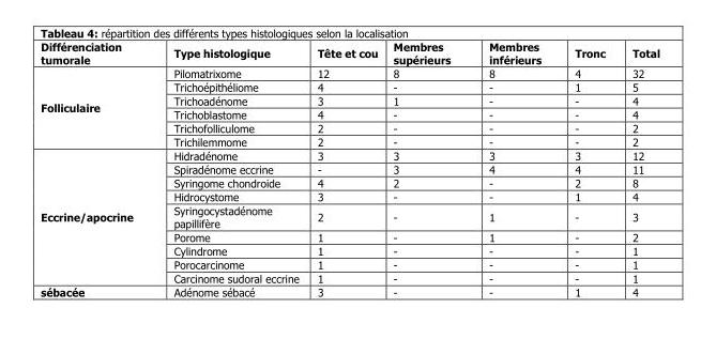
<table><thead><tr><td>Différenciation tumorale</td><td>Type histologique</td><td>Tête et cou</td><td>Membres supérieurs</td><td>Membres inférieurs</td><td>Tronc</td><td>Total</td></tr></thead><tbody><tr><td rowspan="6">Folliculaire</td><td>Pilomatrixome</td><td>12</td><td>8</td><td>8</td><td>4</td><td>32</td></tr><tr><td>Trichoépithéliome</td><td>4</td><td>-</td><td>-</td><td>1</td><td>5</td></tr><tr><td>Trichoadénome</td><td>3</td><td>1</td><td>-</td><td>-</td><td>4</td></tr><tr><td>Trichoblastome</td><td>4</td><td>-</td><td>-</td><td>-</td><td>4</td></tr><tr><td>Trichofolliculome</td><td>2</td><td>-</td><td>-</td><td>-</td><td>2</td></tr><tr><td>Trichilemmome</td><td>2</td><td>-</td><td>-</td><td>-</td><td>2</td></tr><tr><td rowspan="9">Eccrine/apocrine</td><td>Hidradénome</td><td>3</td><td>3</td><td>3</td><td>3</td><td>12</td></tr><tr><td>Spiradénome eccrine</td><td>-</td><td>3</td><td>4</td><td>4</td><td>11</td></tr><tr><td>Syringome chondroide</td><td>4</td><td>2</td><td>-</td><td>2</td><td>8</td></tr><tr><td>Hidrocystome</td><td>3</td><td>-</td><td>-</td><td>1</td><td>4</td></tr><tr><td>Syringocystadénome papillifère</td><td>2</td><td>-</td><td>1</td><td>-</td><td>3</td></tr><tr><td>Porome</td><td>1</td><td>-</td><td>1</td><td>-</td><td>2</td></tr><tr><td>Cylindrome</td><td>1</td><td>-</td><td>-</td><td>-</td><td>1</td></tr><tr><td>Porocarcinome</td><td>1</td><td>-</td><td>-</td><td>-</td><td>1</td></tr><tr><td>Carcinome sudoral eccrine</td><td>1</td><td>-</td><td>-</td><td>-</td><td>1</td></tr><tr><td>sébacée</td><td>Adénome sébacé</td><td>3</td><td>-</td><td>-</td><td>1</td><td>4</td></tr></tbody></table>